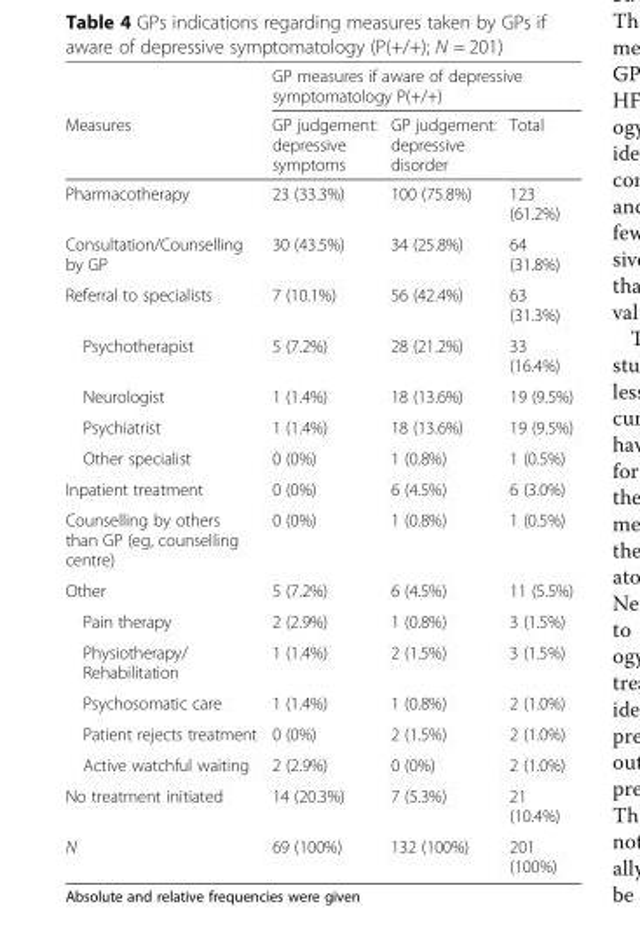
<table><thead><tr><td rowspan="2">Measures</td><td colspan="3">GP measures if aware of depressive symptomatology P(+/+)</td></tr><tr><td>GP judgement: depressive symptoms</td><td>GP judgement: depressive disorder</td><td>Total</td></tr></thead><tbody><tr><td>Pharmacotherapy</td><td>23 (33.3%)</td><td>100 (75.8%)</td><td>123 (61.2%)</td></tr><tr><td>Consultation/Counselling by GP</td><td>30 (43.5%)</td><td>34 (25.8%)</td><td>64 (31.8%)</td></tr><tr><td>Referral to specialists</td><td>7 (10.1%)</td><td>56 (42.4%)</td><td>63 (31.3%)</td></tr><tr><td>Psychotherapist</td><td>5 (7.2%)</td><td>28 (21.2%)</td><td>33 (16.4%)</td></tr><tr><td>Neurologist</td><td>1 (1.4%)</td><td>18 (13.6%)</td><td>19 (9.5%)</td></tr><tr><td>Psychiatrist</td><td>1 (1.4%)</td><td>18 (13.6%)</td><td>19 (9.5%)</td></tr><tr><td>Other specialist</td><td>0 (0%)</td><td>1 (0.8%)</td><td>1 (0.5%)</td></tr><tr><td>Inpatient treatment</td><td>0 (0%)</td><td>6 (4.5%)</td><td>6 (3.0%)</td></tr><tr><td>Counselling by others than GP (eg, counselling centre)</td><td>0 (0%)</td><td>1 (0.8%)</td><td>1 (0.5%)</td></tr><tr><td>Other</td><td>5 (7.2%)</td><td>6 (4.5%)</td><td>11 (5.5%)</td></tr><tr><td>Pain therapy</td><td>2 (2.9%)</td><td>1 (0.8%)</td><td>3 (1.5%)</td></tr><tr><td>Physiotherapy/ Rehabilitation</td><td>1 (1.4%)</td><td>2 (1.5%)</td><td>3 (1.5%)</td></tr><tr><td>Psychosomatic care</td><td>1 (1.4%)</td><td>1 (0.8%)</td><td>2 (1.0%)</td></tr><tr><td>Patient rejects treatment</td><td>0 (0%)</td><td>2 (1.5%)</td><td>2 (1.0%)</td></tr><tr><td>Active watchful waiting</td><td>2 (2.9%)</td><td>0 (0%)</td><td>2 (1.0%)</td></tr><tr><td>No treatment initiated</td><td>14 (20.3%)</td><td>7 (5.3%)</td><td>21 (10.4%)</td></tr><tr><td>N</td><td>69 (100%)</td><td>132 (100%)</td><td>201 (100%)</td></tr></tbody></table>